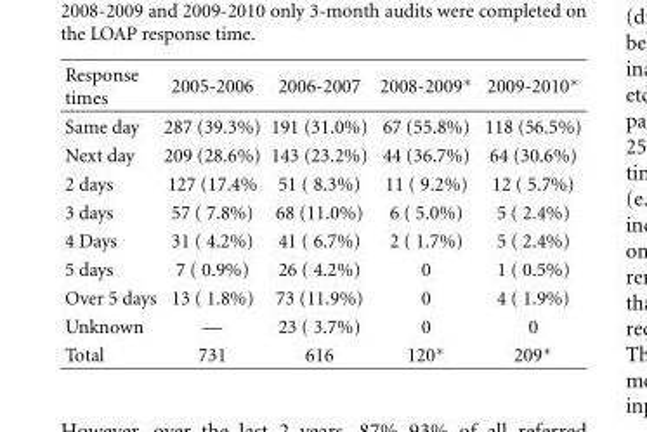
<table><thead><tr><td>Response times</td><td>2005-2006</td><td>2006-2007</td><td>2008-2009∗</td><td>2009-2010∗</td></tr></thead><tbody><tr><td>Same day</td><td>287 (39.3%)</td><td>191 (31.0%)</td><td>67 (55.8%)</td><td>118 (56.5%)</td></tr><tr><td>Next day</td><td>209 (28.6%)</td><td>143 (23.2%)</td><td>44 (36.7%)</td><td>64 (30.6%)</td></tr><tr><td>2 days</td><td>127 (17.4%</td><td>51 ( 8.3%)</td><td>11 ( 9.2%)</td><td>12 ( 5.7%)</td></tr><tr><td>3 days</td><td>57 ( 7.8%)</td><td>68 (11.0%)</td><td>6 ( 5.0%)</td><td>5 ( 2.4%)</td></tr><tr><td>4 Days</td><td>31 ( 4.2%)</td><td>41 ( 6.7%)</td><td>2 ( 1.7%)</td><td>5 ( 2.4%)</td></tr><tr><td>5 days</td><td>7 ( 0.9%)</td><td>26 ( 4.2%)</td><td>0</td><td>1 ( 0.5%)</td></tr><tr><td>Over 5 days</td><td>13 ( 1.8%)</td><td>73 (11.9%)</td><td>0</td><td>4 ( 1.9%)</td></tr><tr><td>Unknown</td><td>—</td><td>23 ( 3.7%)</td><td>0</td><td>0</td></tr><tr><td>Total</td><td>731</td><td>616</td><td>120∗</td><td>209∗</td></tr></tbody></table>